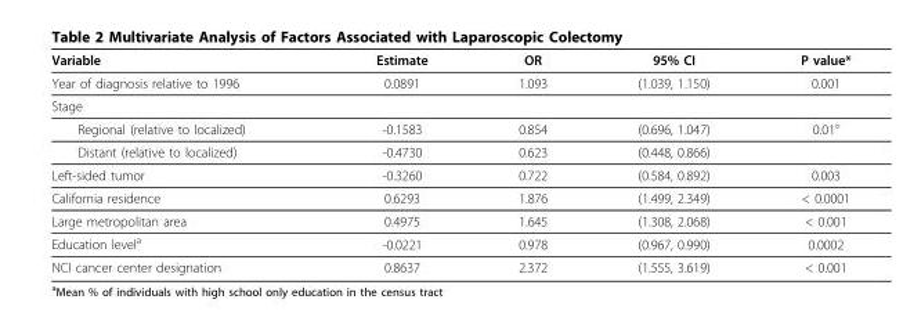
<table><thead><tr><td>Variable</td><td>Estimate</td><td>OR</td><td>95% CI</td><td>P value*</td></tr></thead><tbody><tr><td>Year of diagnosis relative to 1996</td><td>0.0891</td><td>1.093</td><td>(1.039, 1.150)</td><td>0.001</td></tr><tr><td colspan="5">Stage</td></tr><tr><td>Regional (relative to localized)</td><td>-0.1583</td><td>0.854</td><td>(0.696, 1.047)</td><td>0.01°</td></tr><tr><td>Distant (relative to localized)</td><td>-0.4730</td><td>0.623</td><td>(0.448, 0.866)</td><td></td></tr><tr><td>Left-sided tumor</td><td>-0.3260</td><td>0.722</td><td>(0.584, 0.892)</td><td>0.003</td></tr><tr><td>California residence</td><td>0.6293</td><td>1.876</td><td>(1.499, 2.349)</td><td>&lt; 0.0001</td></tr><tr><td>Large metropolitan area</td><td>0.4975</td><td>1.645</td><td>(1.308, 2.068)</td><td>&lt; 0.001</td></tr><tr><td>Education level<sup>a</sup></td><td>-0.0221</td><td>0.978</td><td>(0.967, 0.990)</td><td>0.0002</td></tr><tr><td>NCI cancer center designation</td><td>0.8637</td><td>2.372</td><td>(1.555, 3.619)</td><td>&lt; 0.001</td></tr></tbody></table>